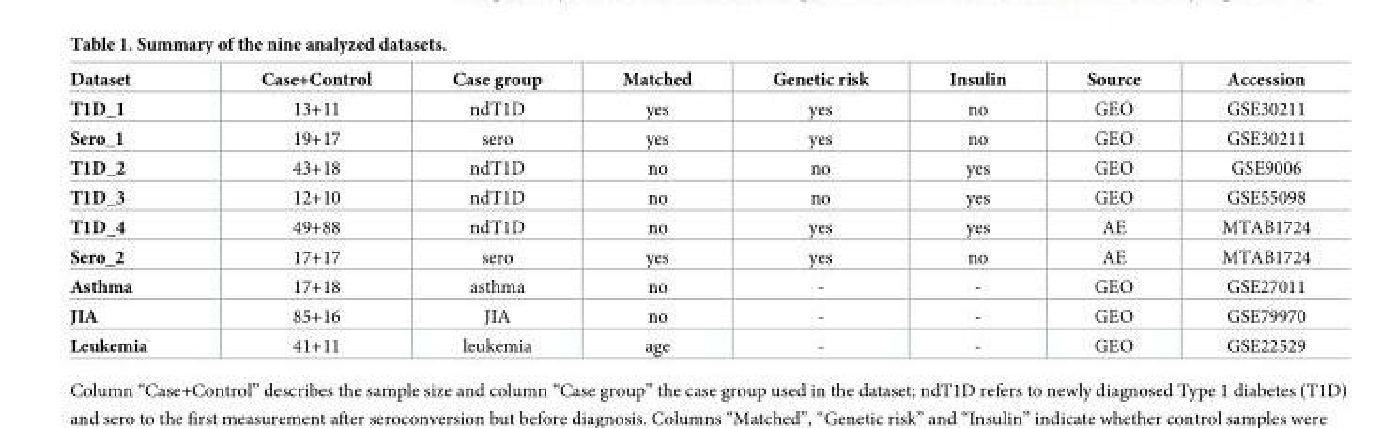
<table><thead><tr><td>Dataset</td><td>Case+Control</td><td>Case group</td><td>Matched</td><td>Genetic risk</td><td>Insulin</td><td>Source</td><td>Accession</td></tr></thead><tbody><tr><td>T1D_1</td><td>13+11</td><td>ndT1D</td><td>yes</td><td>yes</td><td>no</td><td>GEO</td><td>GSE30211</td></tr><tr><td>Sero_1</td><td>19+17</td><td>sero</td><td>yes</td><td>yes</td><td>no</td><td>GEO</td><td>GSE30211</td></tr><tr><td>T1D_2</td><td>43+18</td><td>ndT1D</td><td>no</td><td>no</td><td>yes</td><td>GEO</td><td>GSE9006</td></tr><tr><td>T1D_3</td><td>12+10</td><td>ndT1D</td><td>no</td><td>no</td><td>yes</td><td>GEO</td><td>GSE55098</td></tr><tr><td>T1D_4</td><td>49+88</td><td>ndT1D</td><td>no</td><td>yes</td><td>yes</td><td>AE</td><td>MTAB1724</td></tr><tr><td>Sero_2</td><td>17+17</td><td>sero</td><td>yes</td><td>yes</td><td>no</td><td>AE</td><td>MTAB1724</td></tr><tr><td>Asthma</td><td>17+18</td><td>asthma</td><td>no</td><td>-</td><td>-</td><td>GEO</td><td>GSE27011</td></tr><tr><td>JIA</td><td>85+16</td><td>JIA</td><td>no</td><td>-</td><td>-</td><td>GEO</td><td>GSE79970</td></tr><tr><td>Leukemia</td><td>41+11</td><td>leukemia</td><td>age</td><td>-</td><td>-</td><td>GEO</td><td>GSE22529</td></tr></tbody></table>